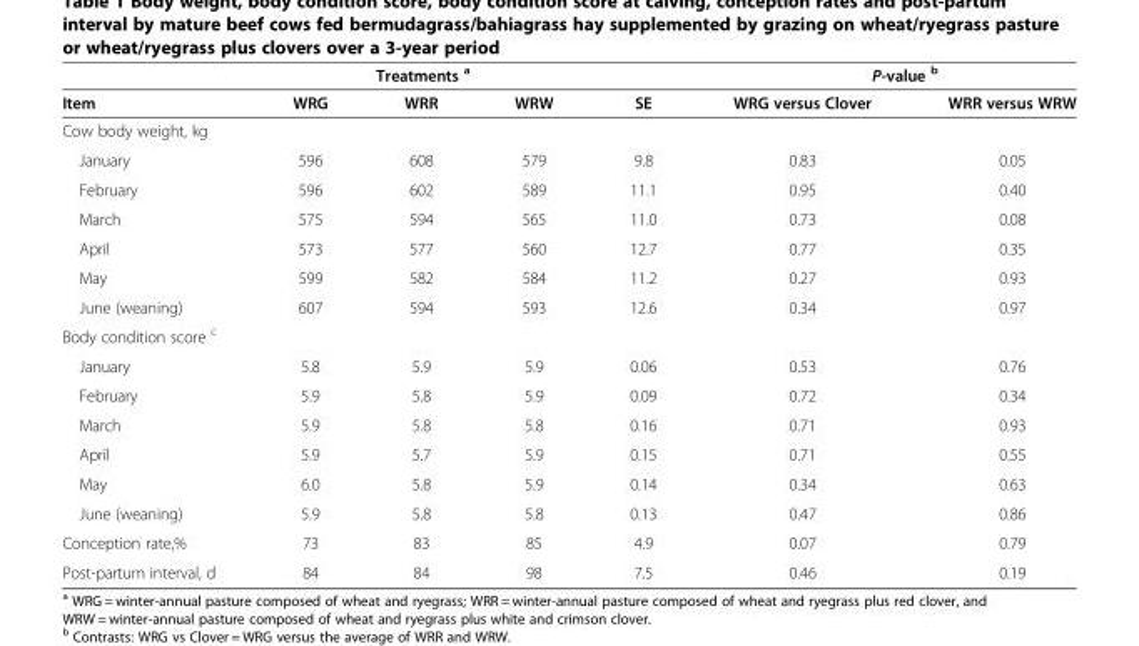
<table><thead><tr><td rowspan="2">Item</td><td colspan="3">Treatments <sup>a</sup></td><td rowspan="2">SE</td><td colspan="2">P-value <sup>b</sup></td></tr><tr><td>WRG</td><td>WRR</td><td>WRW</td><td>WRG versus Clover</td><td>WRR versus WRW</td></tr></thead><tbody><tr><td colspan="7">Cow body weight, kg</td></tr><tr><td>January</td><td>596</td><td>608</td><td>579</td><td>9.8</td><td>0.83</td><td>0.05</td></tr><tr><td>February</td><td>596</td><td>602</td><td>589</td><td>11.1</td><td>0.95</td><td>0.40</td></tr><tr><td>March</td><td>575</td><td>594</td><td>565</td><td>11.0</td><td>0.73</td><td>0.08</td></tr><tr><td>April</td><td>573</td><td>577</td><td>560</td><td>12.7</td><td>0.77</td><td>0.35</td></tr><tr><td>May</td><td>599</td><td>582</td><td>584</td><td>11.2</td><td>0.27</td><td>0.93</td></tr><tr><td>June (weaning)</td><td>607</td><td>594</td><td>593</td><td>12.6</td><td>0.34</td><td>0.97</td></tr><tr><td colspan="7">Body condition score <sup>c</sup></td></tr><tr><td>January</td><td>5.8</td><td>5.9</td><td>5.9</td><td>0.06</td><td>0.53</td><td>0.76</td></tr><tr><td>February</td><td>5.9</td><td>5.8</td><td>5.9</td><td>0.09</td><td>0.72</td><td>0.34</td></tr><tr><td>March</td><td>5.9</td><td>5.8</td><td>5.8</td><td>0.16</td><td>0.71</td><td>0.93</td></tr><tr><td>April</td><td>5.9</td><td>5.7</td><td>5.9</td><td>0.15</td><td>0.71</td><td>0.55</td></tr><tr><td>May</td><td>6.0</td><td>5.8</td><td>5.9</td><td>0.14</td><td>0.34</td><td>0.63</td></tr><tr><td>June (weaning)</td><td>5.9</td><td>5.8</td><td>5.8</td><td>0.13</td><td>0.47</td><td>0.86</td></tr><tr><td>Conception rate,%</td><td>73</td><td>83</td><td>85</td><td>4.9</td><td>0.07</td><td>0.79</td></tr><tr><td>Post-partum interval, d</td><td>84</td><td>84</td><td>98</td><td>7.5</td><td>0.46</td><td>0.19</td></tr></tbody></table>